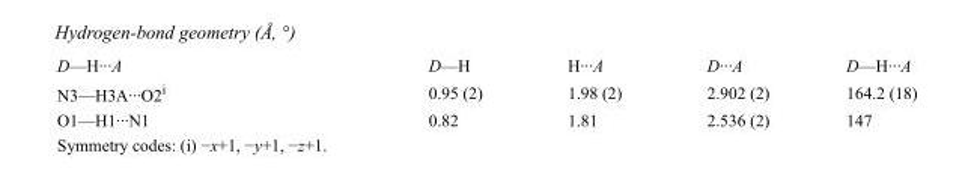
<table><tbody><tr><td>D—H···A</td><td>D—H</td><td>H···A</td><td>D···A</td><td>D—H···A</td></tr><tr><td>N3—H3A···O2<sup>i</sup></td><td>0.95 (2)</td><td>1.98 (2)</td><td>2.902 (2)</td><td>164.2 (18)</td></tr><tr><td>O1—H1···N1</td><td>0.82</td><td>1.81</td><td>2.536 (2)</td><td>147</td></tr></tbody></table>